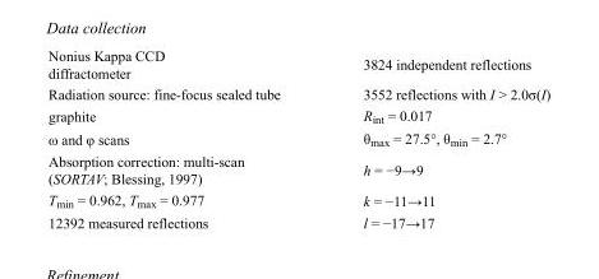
<table><tbody><tr><td>Nonius Kappa CCD diffractometer</td><td>3824 independent reflections</td></tr><tr><td>Radiation source: fine-focus sealed tube</td><td>3552 reflections with I &gt; 2.0σ(I)</td></tr><tr><td>graphite</td><td>R<sub>int</sub> = 0.017</td></tr><tr><td>ω and φ scans</td><td>θ<sub>max</sub> = 27.5°, θ<sub>min</sub> = 2.7°</td></tr><tr><td>Absorption correction: multi-scan (SORTAV; Blessing, 1997)</td><td>h = −9→9</td></tr><tr><td>T<sub>min</sub> = 0.962, T<sub>max</sub> = 0.977</td><td>k = −11→11</td></tr><tr><td>12392 measured reflections</td><td>l = −17→17</td></tr></tbody></table>